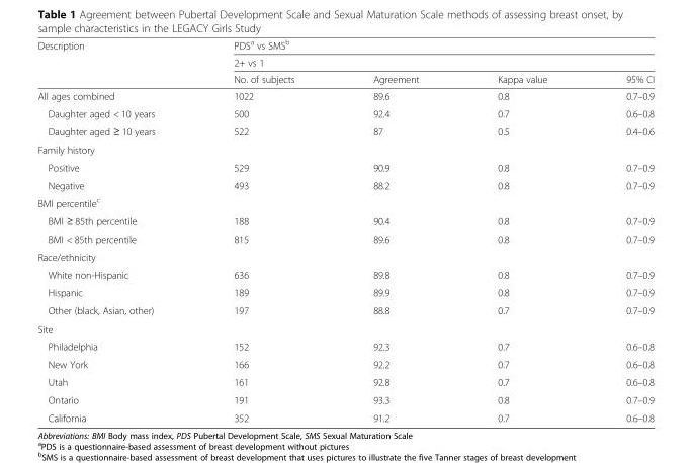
<table><thead><tr><td rowspan="3">Description</td><td rowspan="2" colspan="4">PDS<sup>a</sup> vs SMS<sup>b</sup> 2+ vs 1</td></tr><tr></tr><tr><td>No. of subjects</td><td>Agreement</td><td>Kappa value</td><td>95% CI</td></tr></thead><tbody><tr><td>All ages combined</td><td>1022</td><td>89.6</td><td>0.8</td><td>0.7–0.9</td></tr><tr><td>Daughter aged &lt; 10 years</td><td>500</td><td>92.4</td><td>0.7</td><td>0.6–0.8</td></tr><tr><td>Daughter aged ≥ 10 years</td><td>522</td><td>87</td><td>0.5</td><td>0.4–0.6</td></tr><tr><td colspan="5">Family history</td></tr><tr><td>Positive</td><td>529</td><td>90.9</td><td>0.8</td><td>0.7–0.9</td></tr><tr><td>Negative</td><td>493</td><td>88.2</td><td>0.8</td><td>0.7–0.9</td></tr><tr><td colspan="5">BMI percentile<sup>c</sup></td></tr><tr><td>BMI ≥ 85th percentile</td><td>188</td><td>90.4</td><td>0.8</td><td>0.7–0.9</td></tr><tr><td>BMI &lt; 85th percentile</td><td>815</td><td>89.6</td><td>0.8</td><td>0.7–0.9</td></tr><tr><td colspan="5">Race/ethnicity</td></tr><tr><td>White non-Hispanic</td><td>636</td><td>89.8</td><td>0.8</td><td>0.7–0.9</td></tr><tr><td>Hispanic</td><td>189</td><td>89.9</td><td>0.8</td><td>0.7–0.9</td></tr><tr><td>Other (black, Asian, other)</td><td>197</td><td>88.8</td><td>0.7</td><td>0.7–0.9</td></tr><tr><td colspan="5">Site</td></tr><tr><td>Philadelphia</td><td>152</td><td>92.3</td><td>0.7</td><td>0.6–0.8</td></tr><tr><td>New York</td><td>166</td><td>92.2</td><td>0.7</td><td>0.6–0.8</td></tr><tr><td>Utah</td><td>161</td><td>92.8</td><td>0.7</td><td>0.6–0.8</td></tr><tr><td>Ontario</td><td>191</td><td>93.3</td><td>0.8</td><td>0.7–0.9</td></tr><tr><td>California</td><td>352</td><td>91.2</td><td>0.7</td><td>0.6–0.8</td></tr></tbody></table>